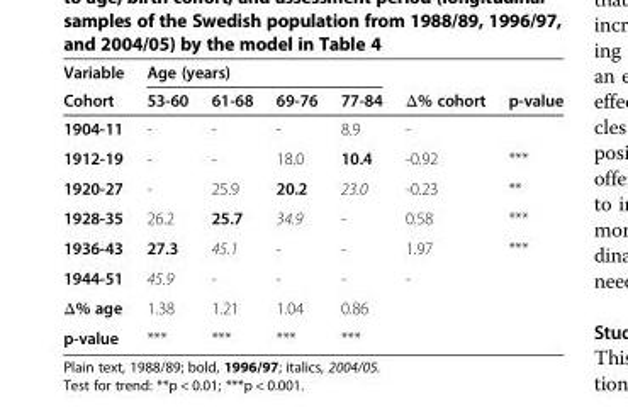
<table><thead><tr><td rowspan="2">Variable Cohort</td><td colspan="4">Age (years)</td><td rowspan="2">Δ% cohort</td><td rowspan="2">p-value</td></tr><tr><td>53-60</td><td>61-68</td><td>69-76</td><td>77-84</td></tr></thead><tbody><tr><td>1904-11</td><td>-</td><td>-</td><td>-</td><td>8.9</td><td>-</td><td></td></tr><tr><td>1912-19</td><td>-</td><td>-</td><td>18.0</td><td>10.4</td><td>-0.92</td><td>***</td></tr><tr><td>1920-27</td><td>-</td><td>25.9</td><td>20.2</td><td>23.0</td><td>-0.23</td><td>**</td></tr><tr><td>1928-35</td><td>26.2</td><td>25.7</td><td>34.9</td><td>-</td><td>0.58</td><td>***</td></tr><tr><td>1936-43</td><td>27.3</td><td>45.1</td><td>-</td><td>-</td><td>1.97</td><td>***</td></tr><tr><td>1944-51</td><td>45.9</td><td>-</td><td>-</td><td>-</td><td>-</td><td></td></tr><tr><td>Δ% age</td><td>1.38</td><td>1.21</td><td>1.04</td><td>0.86</td><td></td><td></td></tr><tr><td>p-value</td><td>***</td><td>***</td><td>***</td><td>***</td><td></td><td></td></tr></tbody></table>